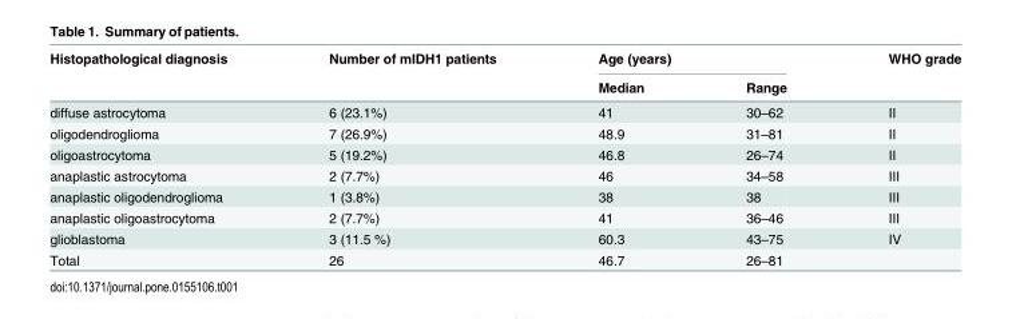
<table><thead><tr><td rowspan="2">Histopathological diagnosis</td><td rowspan="2">Number of mIDH1 patients</td><td colspan="2">Age (years)</td><td rowspan="2">WHO grade</td></tr><tr><td>Median</td><td>Range</td></tr></thead><tbody><tr><td>diffuse astrocytoma</td><td>6 (23.1%)</td><td>41</td><td>30–62</td><td>II</td></tr><tr><td>oligodendroglioma</td><td>7 (26.9%)</td><td>48.9</td><td>31–81</td><td>II</td></tr><tr><td>oligoastrocytoma</td><td>5 (19.2%)</td><td>46.8</td><td>26–74</td><td>II</td></tr><tr><td>anaplastic astrocytoma</td><td>2 (7.7%)</td><td>46</td><td>34–58</td><td>III</td></tr><tr><td>anaplastic oligodendroglioma</td><td>1 (3.8%)</td><td>38</td><td>38</td><td>III</td></tr><tr><td>anaplastic oligoastrocytoma</td><td>2 (7.7%)</td><td>41</td><td>36–46</td><td>III</td></tr><tr><td>glioblastoma</td><td>3 (11.5 %)</td><td>60.3</td><td>43–75</td><td>IV</td></tr><tr><td>Total</td><td>26</td><td>46.7</td><td>26–81</td><td></td></tr></tbody></table>